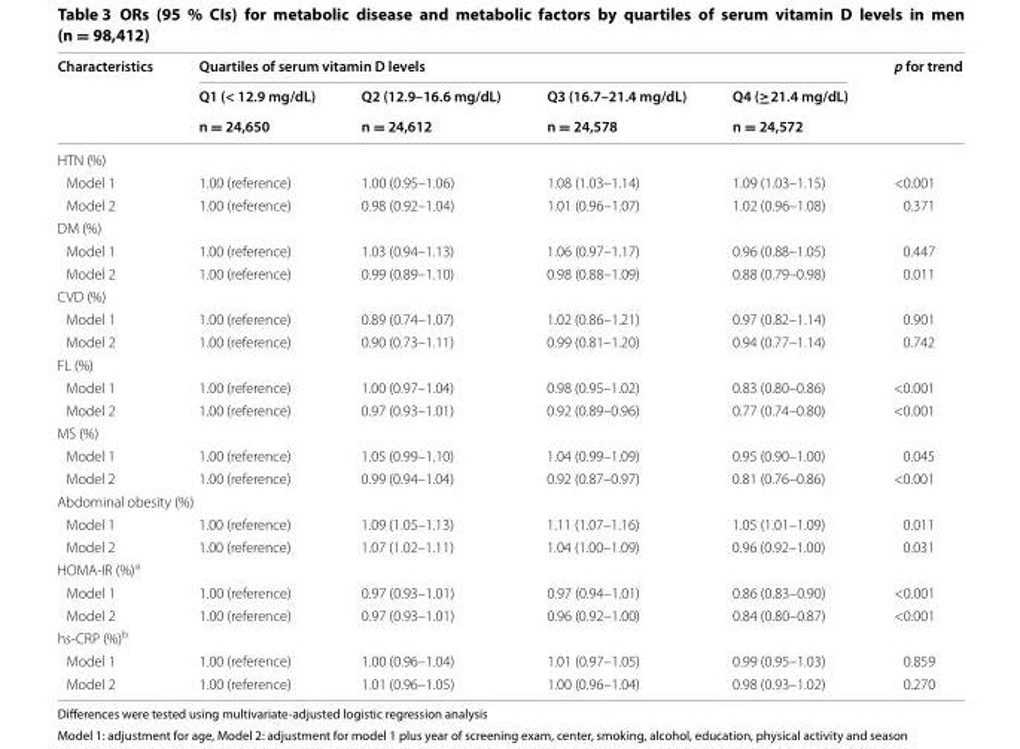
<table><thead><tr><td rowspan="3">Characteristics</td><td colspan="4">Quartiles of serum vitamin D levels</td><td rowspan="3">p for trend</td></tr><tr><td rowspan="2">Q1 (&lt; 12.9 mg/dL) n = 24,650</td><td rowspan="2">Q2 (12.9–16.6 mg/dL) n = 24,612</td><td rowspan="2">Q3 (16.7–21.4 mg/dL) n = 24,578</td><td rowspan="2">Q4 (≥21.4 mg/dL) n = 24,572</td></tr><tr></tr></thead><tbody><tr><td colspan="6">HTN (%)</td></tr><tr><td>Model 1</td><td>1.00 (reference)</td><td>1.00 (0.95–1.06)</td><td>1.08 (1.03–1.14)</td><td>1.09 (1.03–1.15)</td><td>&lt;0.001</td></tr><tr><td>Model 2</td><td>1.00 (reference)</td><td>0.98 (0.92–1.04)</td><td>1.01 (0.96–1.07)</td><td>1.02 (0.96–1.08)</td><td>0.371</td></tr><tr><td colspan="6">DM (%)</td></tr><tr><td>Model 1</td><td>1.00 (reference)</td><td>1.03 (0.94–1.13)</td><td>1.06 (0.97–1.17)</td><td>0.96 (0.88–1.05)</td><td>0.447</td></tr><tr><td>Model 2</td><td>1.00 (reference)</td><td>0.99 (0.89–1.10)</td><td>0.98 (0.88–1.09)</td><td>0.88 (0.79–0.98)</td><td>0.011</td></tr><tr><td colspan="6">CVD (%)</td></tr><tr><td>Model 1</td><td>1.00 (reference)</td><td>0.89 (0.74–1.07)</td><td>1.02 (0.86–1.21)</td><td>0.97 (0.82–1.14)</td><td>0.901</td></tr><tr><td>Model 2</td><td>1.00 (reference)</td><td>0.90 (0.73–1.11)</td><td>0.99 (0.81–1.20)</td><td>0.94 (0.77–1.14)</td><td>0.742</td></tr><tr><td colspan="6">FL (%)</td></tr><tr><td>Model 1</td><td>1.00 (reference)</td><td>1.00 (0.97–1.04)</td><td>0.98 (0.95–1.02)</td><td>0.83 (0.80–0.86)</td><td>&lt;0.001</td></tr><tr><td>Model 2</td><td>1.00 (reference)</td><td>0.97 (0.93–1.01)</td><td>0.92 (0.89–0.96)</td><td>0.77 (0.74–0.80)</td><td>&lt;0.001</td></tr><tr><td colspan="6">MS (%)</td></tr><tr><td>Model 1</td><td>1.00 (reference)</td><td>1.05 (0.99–1.10)</td><td>1.04 (0.99–1.09)</td><td>0.95 (0.90–1.00)</td><td>0.045</td></tr><tr><td>Model 2</td><td>1.00 (reference)</td><td>0.99 (0.94–1.04)</td><td>0.92 (0.87–0.97)</td><td>0.81 (0.76–0.86)</td><td>&lt;0.001</td></tr><tr><td colspan="6">Abdominal obesity (%)</td></tr><tr><td>Model 1</td><td>1.00 (reference)</td><td>1.09 (1.05–1.13)</td><td>1.11 (1.07–1.16)</td><td>1.05 (1.01–1.09)</td><td>0.011</td></tr><tr><td>Model 2</td><td>1.00 (reference)</td><td>1.07 (1.02–1.11)</td><td>1.04 (1.00–1.09)</td><td>0.96 (0.92–1.00)</td><td>0.031</td></tr><tr><td colspan="6">HOMA‑IR (%)<sup>a</sup></td></tr><tr><td>Model 1</td><td>1.00 (reference)</td><td>0.97 (0.93–1.01)</td><td>0.97 (0.94–1.01)</td><td>0.86 (0.83–0.90)</td><td>&lt;0.001</td></tr><tr><td>Model 2</td><td>1.00 (reference)</td><td>0.97 (0.93–1.01)</td><td>0.96 (0.92–1.00)</td><td>0.84 (0.80–0.87)</td><td>&lt;0.001</td></tr><tr><td colspan="6">hs‑CRP (%)<sup>b</sup></td></tr><tr><td>Model 1</td><td>1.00 (reference)</td><td>1.00 (0.96–1.04)</td><td>1.01 (0.97–1.05)</td><td>0.99 (0.95–1.03)</td><td>0.859</td></tr><tr><td>Model 2</td><td>1.00 (reference)</td><td>1.01 (0.96–1.05)</td><td>1.00 (0.96–1.04)</td><td>0.98 (0.93–1.02)</td><td>0.270</td></tr></tbody></table>